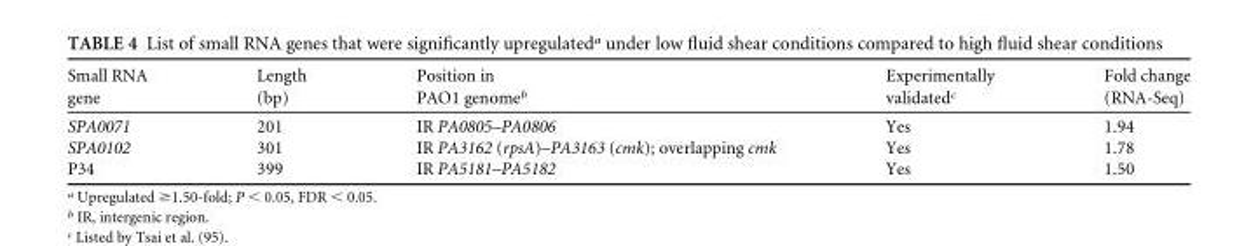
<table><thead><tr><td>Small RNA gene</td><td>Length (bp)</td><td>Position in PAO1 genome<sup>b</sup></td><td>Experimentally validated<sup>c</sup></td><td>Fold change (RNA-Seq)</td></tr></thead><tbody><tr><td>SPA0071</td><td>201</td><td>IR PA0805–PA0806</td><td>Yes</td><td>1.94</td></tr><tr><td>SPA0102</td><td>301</td><td>IR PA3162 (rpsA)–PA3163 (cmk); overlapping cmk</td><td>Yes</td><td>1.78</td></tr><tr><td>P34</td><td>399</td><td>IR PA5181–PA5182</td><td>Yes</td><td>1.50</td></tr></tbody></table>